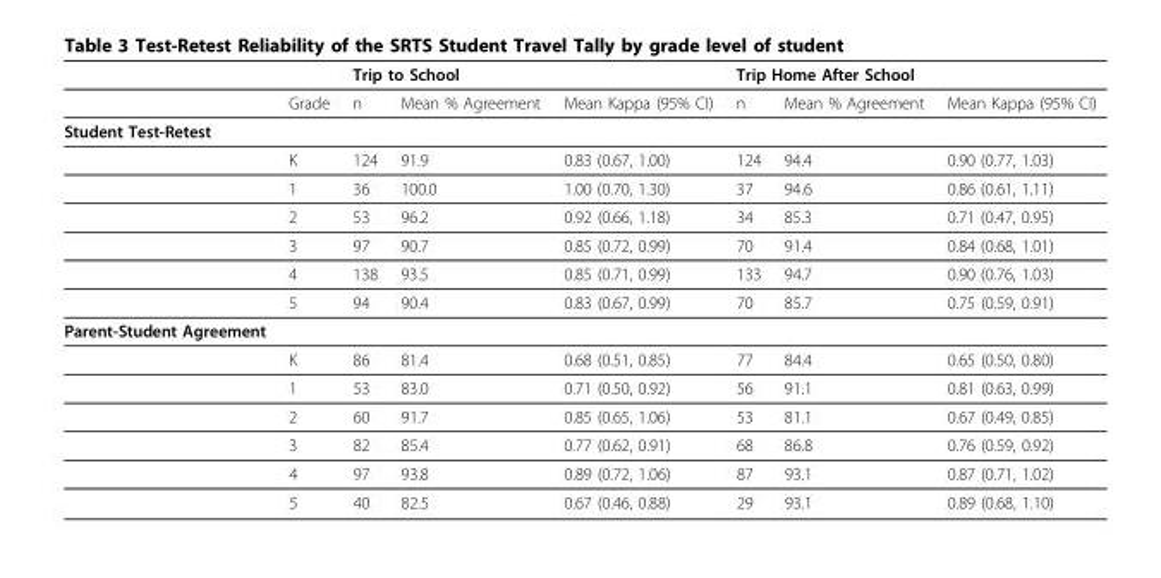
<table><thead><tr><td rowspan="2"></td><td rowspan="2">Grade</td><td colspan="3">Trip to School</td><td colspan="3">Trip Home After School</td></tr><tr><td>n</td><td>Mean % Agreement</td><td>Mean Kappa (95% CI)</td><td>n</td><td>Mean % Agreement</td><td>Mean Kappa (95% CI)</td></tr></thead><tbody><tr><td colspan="8">Student Test-Retest</td></tr><tr><td></td><td>K</td><td>124</td><td>91.9</td><td>0.83 (0.67, 1.00)</td><td>124</td><td>94.4</td><td>0.90 (0.77, 1.03)</td></tr><tr><td></td><td>1</td><td>36</td><td>100.0</td><td>1.00 (0.70, 1.30)</td><td>37</td><td>94.6</td><td>0.86 (0.61, 1.11)</td></tr><tr><td></td><td>2</td><td>53</td><td>96.2</td><td>0.92 (0.66, 1.18)</td><td>34</td><td>85.3</td><td>0.71 (0.47, 0.95)</td></tr><tr><td></td><td>3</td><td>97</td><td>90.7</td><td>0.85 (0.72, 0.99)</td><td>70</td><td>91.4</td><td>0.84 (0.68, 1.01)</td></tr><tr><td></td><td>4</td><td>138</td><td>93.5</td><td>0.85 (0.71, 0.99)</td><td>133</td><td>94.7</td><td>0.90 (0.76, 1.03)</td></tr><tr><td></td><td>5</td><td>94</td><td>90.4</td><td>0.83 (0.67, 0.99)</td><td>70</td><td>85.7</td><td>0.75 (0.59, 0.91)</td></tr><tr><td colspan="8">Parent-Student Agreement</td></tr><tr><td></td><td>K</td><td>86</td><td>81.4</td><td>0.68 (0.51, 0.85)</td><td>77</td><td>84.4</td><td>0.65 (0.50, 0.80)</td></tr><tr><td></td><td>1</td><td>53</td><td>83.0</td><td>0.71 (0.50, 0.92)</td><td>56</td><td>91.1</td><td>0.81 (0.63, 0.99)</td></tr><tr><td></td><td>2</td><td>60</td><td>91.7</td><td>0.85 (0.65, 1.06)</td><td>53</td><td>81.1</td><td>0.67 (0.49, 0.85)</td></tr><tr><td></td><td>3</td><td>82</td><td>85.4</td><td>0.77 (0.62, 0.91)</td><td>68</td><td>86.8</td><td>0.76 (0.59, 0.92)</td></tr><tr><td></td><td>4</td><td>97</td><td>93.8</td><td>0.89 (0.72, 1.06)</td><td>87</td><td>93.1</td><td>0.87 (0.71, 1.02)</td></tr><tr><td></td><td>5</td><td>40</td><td>82.5</td><td>0.67 (0.46, 0.88)</td><td>29</td><td>93.1</td><td>0.89 (0.68, 1.10)</td></tr></tbody></table>